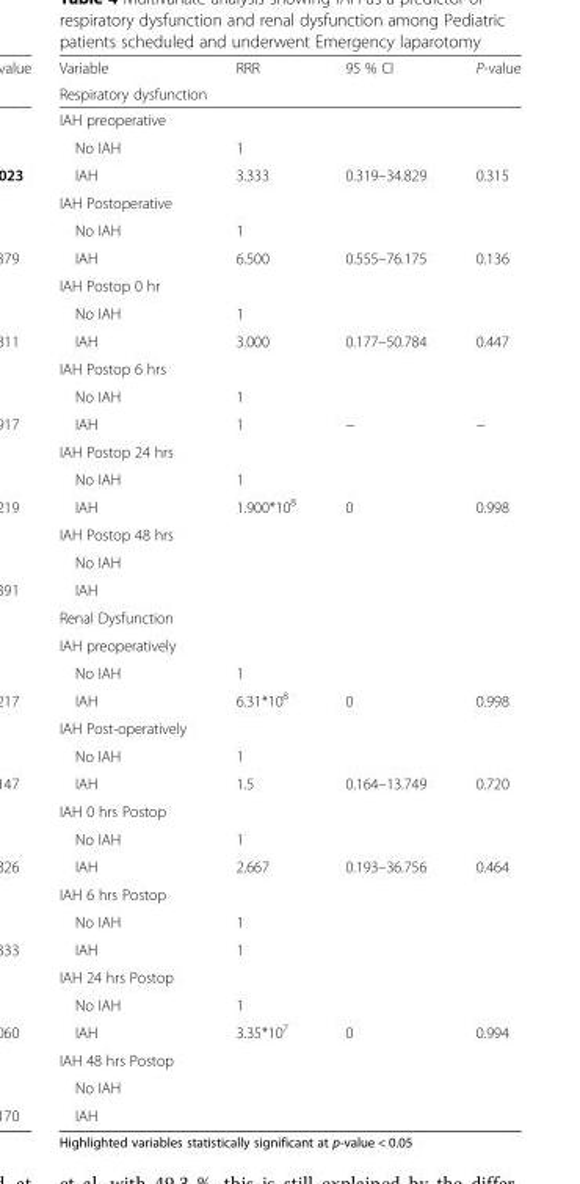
<table><thead><tr><td>Variable</td><td>RRR</td><td>95 % CI</td><td>P-value</td></tr><tr><td colspan="4">Respiratory dysfunction</td></tr></thead><tbody><tr><td colspan="4">IAH preoperative</td></tr><tr><td>No IAH</td><td>1</td><td></td><td></td></tr><tr><td>IAH</td><td>3.333</td><td>0.319–34.829</td><td>0.315</td></tr><tr><td colspan="4">IAH Postoperative</td></tr><tr><td>No IAH</td><td>1</td><td></td><td></td></tr><tr><td>IAH</td><td>6.500</td><td>0.555–76.175</td><td>0.136</td></tr><tr><td colspan="4">IAH Postop 0 hr</td></tr><tr><td>No IAH</td><td>1</td><td></td><td></td></tr><tr><td>IAH</td><td>3.000</td><td>0.177–50.784</td><td>0.447</td></tr><tr><td colspan="4">IAH Postop 6 hrs</td></tr><tr><td>No IAH</td><td>1</td><td></td><td></td></tr><tr><td>IAH</td><td>1</td><td>−</td><td>−</td></tr><tr><td colspan="4">IAH Postop 24 hrs</td></tr><tr><td>No IAH</td><td>1</td><td></td><td></td></tr><tr><td>IAH</td><td>1.900*10<sup>8</sup></td><td>0</td><td>0.998</td></tr><tr><td colspan="4">IAH Postop 48 hrs</td></tr><tr><td colspan="4">No IAH</td></tr><tr><td colspan="4">IAH</td></tr><tr><td colspan="4">Renal Dysfunction</td></tr><tr><td colspan="4">IAH preoperatively</td></tr><tr><td>No IAH</td><td>1</td><td></td><td></td></tr><tr><td>IAH</td><td>6.31*10<sup>8</sup></td><td>0</td><td>0.998</td></tr><tr><td colspan="4">IAH Post-operatively</td></tr><tr><td>No IAH</td><td>1</td><td></td><td></td></tr><tr><td>IAH</td><td>1.5</td><td>0.164–13.749</td><td>0.720</td></tr><tr><td colspan="4">IAH 0 hrs Postop</td></tr><tr><td>No IAH</td><td>1</td><td></td><td></td></tr><tr><td>IAH</td><td>2.667</td><td>0.193–36.756</td><td>0.464</td></tr><tr><td colspan="4">IAH 6 hrs Postop</td></tr><tr><td>No IAH</td><td>1</td><td></td><td></td></tr><tr><td>IAH</td><td>1</td><td></td><td></td></tr><tr><td colspan="4">IAH 24 hrs Postop</td></tr><tr><td>No IAH</td><td>1</td><td></td><td></td></tr><tr><td>IAH</td><td>3.35*10<sup>7</sup></td><td>0</td><td>0.994</td></tr><tr><td colspan="4">IAH 48 hrs Postop</td></tr><tr><td colspan="4">No IAH</td></tr><tr><td>IAH</td><td></td><td></td><td></td></tr></tbody></table>